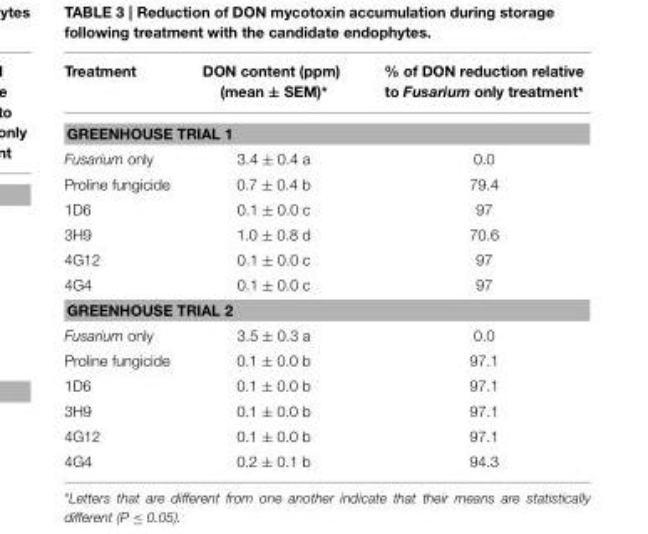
<table><thead><tr><td>Treatment</td><td>DON content (ppm) (mean ± SEM)*</td><td>% of DON reduction relative to Fusarium only treatment*</td></tr></thead><tbody><tr><td colspan="3">GREENHOUSE TRIAL 1</td></tr><tr><td>Fusarium only</td><td>3.4 ± 0.4 a</td><td>0.0</td></tr><tr><td>Proline fungicide</td><td>0.7 ± 0.4 b</td><td>79.4</td></tr><tr><td>1D6</td><td>0.1 ± 0.0 c</td><td>97</td></tr><tr><td>3H9</td><td>1.0 ± 0.8 d</td><td>70.6</td></tr><tr><td>4G12</td><td>0.1 ± 0.0 c</td><td>97</td></tr><tr><td>4G4</td><td>0.1 ± 0.0 c</td><td>97</td></tr><tr><td colspan="3">GREENHOUSE TRIAL 2</td></tr><tr><td>Fusarium only</td><td>3.5 ± 0.3 a</td><td>0.0</td></tr><tr><td>Proline fungicide</td><td>0.1 ± 0.0 b</td><td>97.1</td></tr><tr><td>1D6</td><td>0.1 ± 0.0 b</td><td>97.1</td></tr><tr><td>3H9</td><td>0.1 ± 0.0 b</td><td>97.1</td></tr><tr><td>4G12</td><td>0.1 ± 0.0 b</td><td>97.1</td></tr><tr><td>4G4</td><td>0.2 ± 0.1 b</td><td>94.3</td></tr></tbody></table>